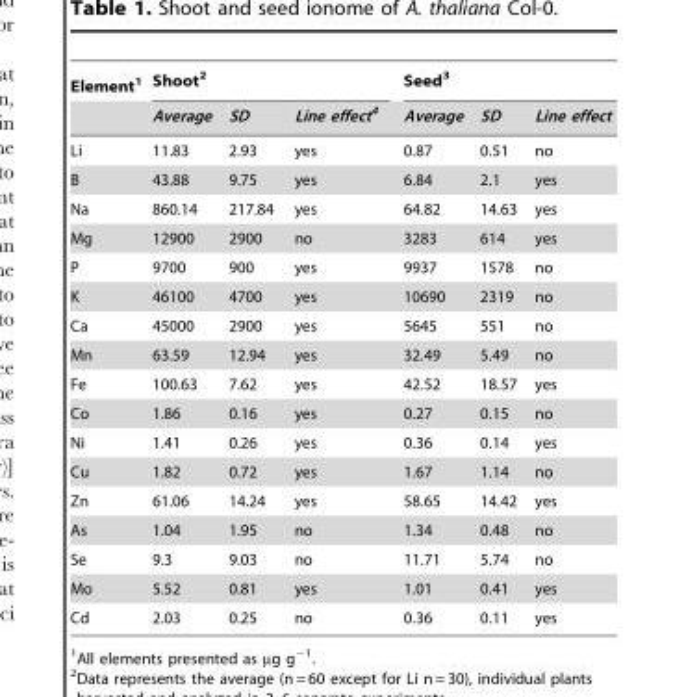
<table><thead><tr><td rowspan="2">Element<sup>1</sup></td><td colspan="3">Shoot<sup>2</sup></td><td colspan="3">Seed<sup>3</sup></td></tr><tr><td>Average</td><td>SD</td><td>Line effect4</td><td>Average</td><td>SD</td><td>Line effect</td></tr></thead><tbody><tr><td>Li</td><td>11.83</td><td>2.93</td><td>yes</td><td>0.87</td><td>0.51</td><td>no</td></tr><tr><td>B</td><td>43.88</td><td>9.75</td><td>yes</td><td>6.84</td><td>2.1</td><td>yes</td></tr><tr><td>Na</td><td>860.14</td><td>217.84</td><td>yes</td><td>64.82</td><td>14.63</td><td>yes</td></tr><tr><td>Mg</td><td>12900</td><td>2900</td><td>no</td><td>3283</td><td>614</td><td>yes</td></tr><tr><td>P</td><td>9700</td><td>900</td><td>yes</td><td>9937</td><td>1578</td><td>no</td></tr><tr><td>K</td><td>46100</td><td>4700</td><td>yes</td><td>10690</td><td>2319</td><td>no</td></tr><tr><td>Ca</td><td>45000</td><td>2900</td><td>yes</td><td>5645</td><td>551</td><td>no</td></tr><tr><td>Mn</td><td>63.59</td><td>12.94</td><td>yes</td><td>32.49</td><td>5.49</td><td>no</td></tr><tr><td>Fe</td><td>100.63</td><td>7.62</td><td>yes</td><td>42.52</td><td>18.57</td><td>yes</td></tr><tr><td>Co</td><td>1.86</td><td>0.16</td><td>yes</td><td>0.27</td><td>0.15</td><td>no</td></tr><tr><td>Ni</td><td>1.41</td><td>0.26</td><td>yes</td><td>0.36</td><td>0.14</td><td>yes</td></tr><tr><td>Cu</td><td>1.82</td><td>0.72</td><td>yes</td><td>1.67</td><td>1.14</td><td>no</td></tr><tr><td>Zn</td><td>61.06</td><td>14.24</td><td>yes</td><td>58.65</td><td>14.42</td><td>yes</td></tr><tr><td>As</td><td>1.04</td><td>1.95</td><td>no</td><td>1.34</td><td>0.48</td><td>no</td></tr><tr><td>Se</td><td>9.3</td><td>9.03</td><td>no</td><td>11.71</td><td>5.74</td><td>no</td></tr><tr><td>Mo</td><td>5.52</td><td>0.81</td><td>yes</td><td>1.01</td><td>0.41</td><td>yes</td></tr><tr><td>Cd</td><td>2.03</td><td>0.25</td><td>no</td><td>0.36</td><td>0.11</td><td>yes</td></tr></tbody></table>